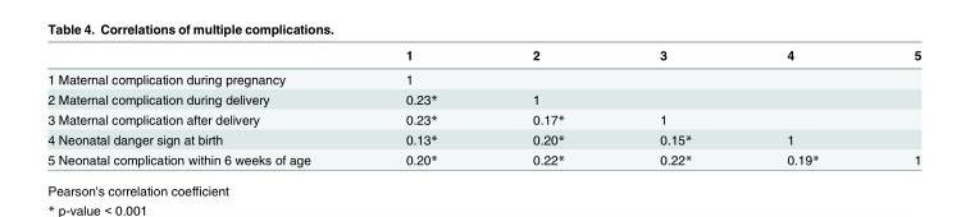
<table><thead><tr><td></td><td>1</td><td>2</td><td>3</td><td>4</td><td>5</td></tr></thead><tbody><tr><td>1 Maternal complication during pregnancy</td><td>1</td><td></td><td></td><td></td><td></td></tr><tr><td>2 Maternal complication during delivery</td><td>0.23*</td><td>1</td><td></td><td></td><td></td></tr><tr><td>3 Maternal complication after delivery</td><td>0.23*</td><td>0.17*</td><td>1</td><td></td><td></td></tr><tr><td>4 Neonatal danger sign at birth</td><td>0.13*</td><td>0.20*</td><td>0.15*</td><td>1</td><td></td></tr><tr><td>5 Neonatal complication within 6 weeks of age</td><td>0.20*</td><td>0.22*</td><td>0.22*</td><td>0.19*</td><td>1</td></tr></tbody></table>